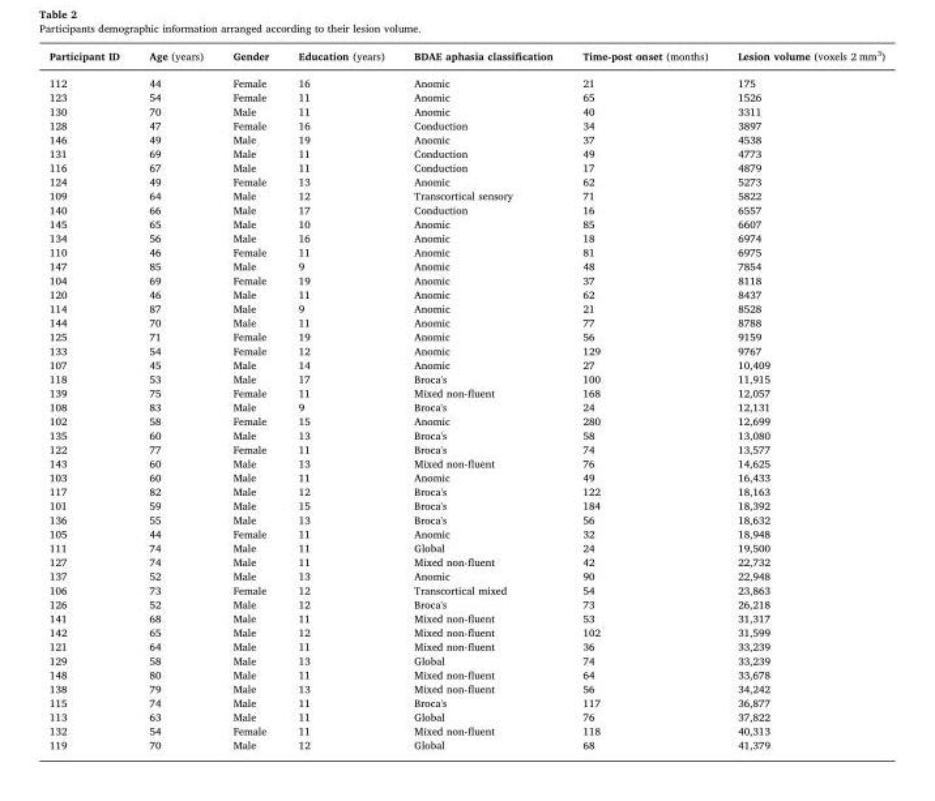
<table><thead><tr><td>Participant ID</td><td>Age (years)</td><td>Gender</td><td>Education (years)</td><td>BDAE aphasia classification</td><td>Time-post onset (months)</td><td>Lesion volume (voxels 2 mm<sup>3</sup>)</td></tr></thead><tbody><tr><td>112</td><td>44</td><td>Female</td><td>16</td><td>Anomic</td><td>21</td><td>175</td></tr><tr><td>123</td><td>54</td><td>Female</td><td>11</td><td>Anomic</td><td>65</td><td>1526</td></tr><tr><td>130</td><td>70</td><td>Male</td><td>11</td><td>Anomic</td><td>40</td><td>3311</td></tr><tr><td>128</td><td>47</td><td>Female</td><td>16</td><td>Conduction</td><td>34</td><td>3897</td></tr><tr><td>146</td><td>49</td><td>Male</td><td>19</td><td>Anomic</td><td>37</td><td>4538</td></tr><tr><td>131</td><td>69</td><td>Male</td><td>11</td><td>Conduction</td><td>49</td><td>4773</td></tr><tr><td>116</td><td>67</td><td>Male</td><td>11</td><td>Conduction</td><td>17</td><td>4879</td></tr><tr><td>124</td><td>49</td><td>Female</td><td>13</td><td>Anomic</td><td>62</td><td>5273</td></tr><tr><td>109</td><td>64</td><td>Male</td><td>12</td><td>Transcortical sensory</td><td>71</td><td>5822</td></tr><tr><td>140</td><td>66</td><td>Male</td><td>17</td><td>Conduction</td><td>16</td><td>6557</td></tr><tr><td>145</td><td>65</td><td>Male</td><td>10</td><td>Anomic</td><td>85</td><td>6607</td></tr><tr><td>134</td><td>56</td><td>Male</td><td>16</td><td>Anomic</td><td>18</td><td>6974</td></tr><tr><td>110</td><td>46</td><td>Female</td><td>11</td><td>Anomic</td><td>81</td><td>6975</td></tr><tr><td>147</td><td>85</td><td>Male</td><td>9</td><td>Anomic</td><td>48</td><td>7854</td></tr><tr><td>104</td><td>69</td><td>Female</td><td>19</td><td>Anomic</td><td>37</td><td>8118</td></tr><tr><td>120</td><td>46</td><td>Male</td><td>11</td><td>Anomic</td><td>62</td><td>8437</td></tr><tr><td>114</td><td>87</td><td>Male</td><td>9</td><td>Anomic</td><td>21</td><td>8528</td></tr><tr><td>144</td><td>70</td><td>Male</td><td>11</td><td>Anomic</td><td>77</td><td>8788</td></tr><tr><td>125</td><td>71</td><td>Female</td><td>19</td><td>Anomic</td><td>56</td><td>9159</td></tr><tr><td>133</td><td>54</td><td>Female</td><td>12</td><td>Anomic</td><td>129</td><td>9767</td></tr><tr><td>107</td><td>45</td><td>Male</td><td>14</td><td>Anomic</td><td>27</td><td>10,409</td></tr><tr><td>118</td><td>53</td><td>Male</td><td>17</td><td>Broca&#x27;s</td><td>100</td><td>11,915</td></tr><tr><td>139</td><td>75</td><td>Female</td><td>11</td><td>Mixed non-fluent</td><td>168</td><td>12,057</td></tr><tr><td>108</td><td>83</td><td>Male</td><td>9</td><td>Broca&#x27;s</td><td>24</td><td>12,131</td></tr><tr><td>102</td><td>58</td><td>Female</td><td>15</td><td>Anomic</td><td>280</td><td>12,699</td></tr><tr><td>135</td><td>60</td><td>Male</td><td>13</td><td>Broca&#x27;s</td><td>58</td><td>13,080</td></tr><tr><td>122</td><td>77</td><td>Female</td><td>11</td><td>Broca&#x27;s</td><td>74</td><td>13,577</td></tr><tr><td>143</td><td>60</td><td>Male</td><td>13</td><td>Mixed non-fluent</td><td>76</td><td>14,625</td></tr><tr><td>103</td><td>60</td><td>Male</td><td>11</td><td>Anomic</td><td>49</td><td>16,433</td></tr><tr><td>117</td><td>82</td><td>Male</td><td>12</td><td>Broca&#x27;s</td><td>122</td><td>18,163</td></tr><tr><td>101</td><td>59</td><td>Male</td><td>15</td><td>Broca&#x27;s</td><td>184</td><td>18,392</td></tr><tr><td>136</td><td>55</td><td>Male</td><td>13</td><td>Broca&#x27;s</td><td>56</td><td>18,632</td></tr><tr><td>105</td><td>44</td><td>Female</td><td>11</td><td>Anomic</td><td>32</td><td>18,948</td></tr><tr><td>111</td><td>74</td><td>Male</td><td>11</td><td>Global</td><td>24</td><td>19,500</td></tr><tr><td>127</td><td>74</td><td>Male</td><td>11</td><td>Mixed non-fluent</td><td>42</td><td>22,732</td></tr><tr><td>137</td><td>52</td><td>Male</td><td>13</td><td>Anomic</td><td>90</td><td>22,948</td></tr><tr><td>106</td><td>73</td><td>Female</td><td>12</td><td>Transcortical mixed</td><td>54</td><td>23,863</td></tr><tr><td>126</td><td>52</td><td>Male</td><td>12</td><td>Broca&#x27;s</td><td>73</td><td>26,218</td></tr><tr><td>141</td><td>68</td><td>Male</td><td>11</td><td>Mixed non-fluent</td><td>53</td><td>31,317</td></tr><tr><td>142</td><td>65</td><td>Male</td><td>12</td><td>Mixed non-fluent</td><td>102</td><td>31,599</td></tr><tr><td>121</td><td>64</td><td>Male</td><td>11</td><td>Mixed non-fluent</td><td>36</td><td>33,239</td></tr><tr><td>129</td><td>58</td><td>Male</td><td>13</td><td>Global</td><td>74</td><td>33,239</td></tr><tr><td>148</td><td>80</td><td>Male</td><td>11</td><td>Mixed non-fluent</td><td>64</td><td>33,678</td></tr><tr><td>138</td><td>79</td><td>Male</td><td>13</td><td>Mixed non-fluent</td><td>56</td><td>34,242</td></tr><tr><td>115</td><td>74</td><td>Male</td><td>11</td><td>Broca&#x27;s</td><td>117</td><td>36,877</td></tr><tr><td>113</td><td>63</td><td>Male</td><td>11</td><td>Global</td><td>76</td><td>37,822</td></tr><tr><td>132</td><td>54</td><td>Female</td><td>11</td><td>Mixed non-fluent</td><td>118</td><td>40,313</td></tr><tr><td>119</td><td>70</td><td>Male</td><td>12</td><td>Global</td><td>68</td><td>41,379</td></tr></tbody></table>